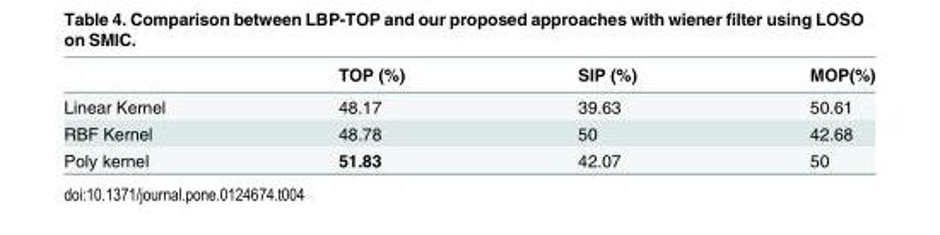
<table><thead><tr><td></td><td>TOP (%)</td><td>SIP (%)</td><td>MOP(%)</td></tr></thead><tbody><tr><td>Linear Kernel</td><td>48.17</td><td>39.63</td><td>50.61</td></tr><tr><td>RBF Kernel</td><td>48.78</td><td>50</td><td>42.68</td></tr><tr><td>Poly kernel</td><td>51.83</td><td>42.07</td><td>50</td></tr></tbody></table>